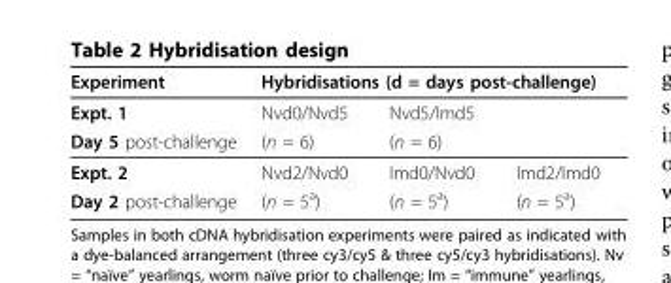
<table><thead><tr><td rowspan="2">Experiment Expt. 1</td><td colspan="3">Hybridisations (d = days post-challenge)</td></tr><tr><td>Nvd0/Nvd5</td><td>Nvd5/Imd5</td><td></td></tr></thead><tbody><tr><td>Day 5 post-challenge</td><td>(n = 6)</td><td>(n = 6)</td><td></td></tr><tr><td>Expt. 2</td><td>Nvd2/Nvd0</td><td>Imd0/Nvd0</td><td>Imd2/Imd0</td></tr><tr><td>Day 2 post-challenge</td><td>(n = 5<sup>a</sup>)</td><td>(n = 5<sup>a</sup>)</td><td>(n = 5<sup>a</sup>)</td></tr></tbody></table>